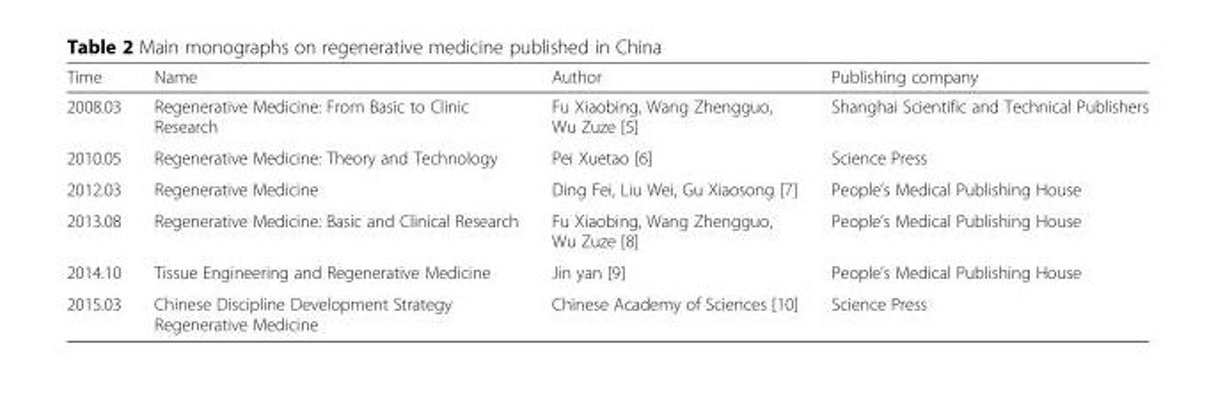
<table><thead><tr><td>Time</td><td>Name</td><td>Author</td><td>Publishing company</td></tr></thead><tbody><tr><td>2008.03</td><td>Regenerative Medicine: From Basic to Clinic Research</td><td>Fu Xiaobing, Wang Zhengguo, Wu Zuze [5]</td><td>Shanghai Scientific and Technical Publishers</td></tr><tr><td>2010.05</td><td>Regenerative Medicine: Theory and Technology</td><td>Pei Xuetao [6]</td><td>Science Press</td></tr><tr><td>2012.03</td><td>Regenerative Medicine</td><td>Ding Fei, Liu Wei, Gu Xiaosong [7]</td><td>People’s Medical Publishing House</td></tr><tr><td>2013.08</td><td>Regenerative Medicine: Basic and Clinical Research</td><td>Fu Xiaobing, Wang Zhengguo, Wu Zuze [8]</td><td>People’s Medical Publishing House</td></tr><tr><td>2014.10</td><td>Tissue Engineering and Regenerative Medicine</td><td>Jin yan [9]</td><td>People’s Medical Publishing House</td></tr><tr><td>2015.03</td><td>Chinese Discipline Development Strategy Regenerative Medicine</td><td>Chinese Academy of Sciences [10]</td><td>Science Press</td></tr></tbody></table>